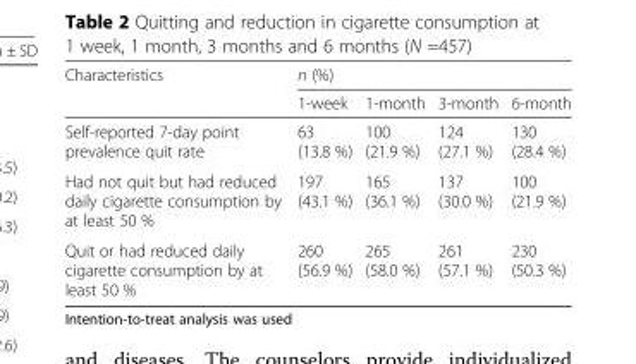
<table><thead><tr><td rowspan="2">Characteristics</td><td colspan="4">n (%)</td></tr><tr><td>1-week</td><td>1-month</td><td>3-month</td><td>6-month</td></tr></thead><tbody><tr><td>Self-reported 7-day point prevalence quit rate</td><td>63 (13.8 %)</td><td>100 (21.9 %)</td><td>124 (27.1 %)</td><td>130 (28.4 %)</td></tr><tr><td>Had not quit but had reduced daily cigarette consumption by at least 50 %</td><td>197 (43.1 %)</td><td>165 (36.1 %)</td><td>137 (30.0 %)</td><td>100 (21.9 %)</td></tr><tr><td>Quit or had reduced daily cigarette consumption by at least 50 %</td><td>260 (56.9 %)</td><td>265 (58.0 %)</td><td>261 (57.1 %)</td><td>230 (50.3 %)</td></tr></tbody></table>